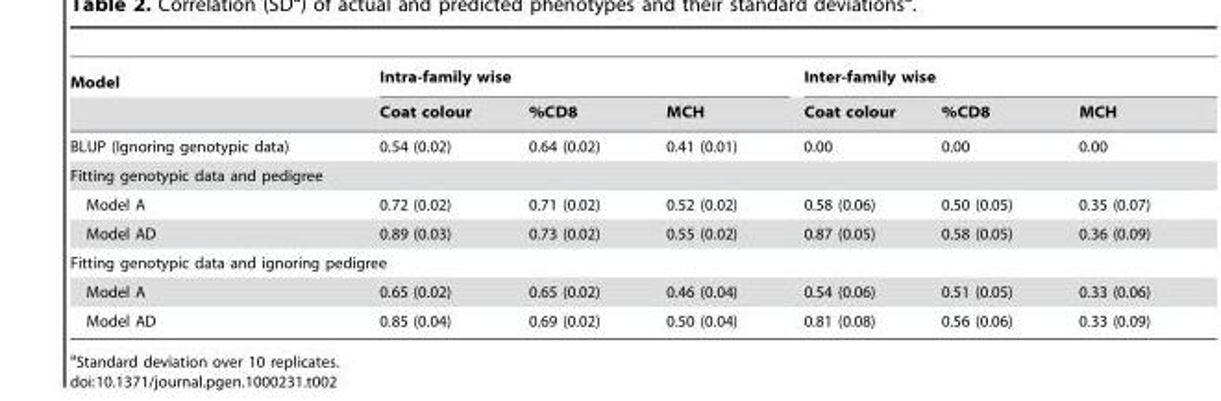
<table><thead><tr><td rowspan="2">Model</td><td colspan="3">Intra-family wise</td><td colspan="3">Inter-family wise</td></tr><tr><td>Coat colour</td><td>%CD8</td><td>MCH</td><td>Coat colour</td><td>%CD8</td><td>MCH</td></tr></thead><tbody><tr><td>BLUP (Ignoring genotypic data)</td><td>0.54 (0.02)</td><td>0.64 (0.02)</td><td>0.41 (0.01)</td><td>0.00</td><td>0.00</td><td>0.00</td></tr><tr><td colspan="7">Fitting genotypic data and pedigree</td></tr><tr><td>Model A</td><td>0.72 (0.02)</td><td>0.71 (0.02)</td><td>0.52 (0.02)</td><td>0.58 (0.06)</td><td>0.50 (0.05)</td><td>0.35 (0.07)</td></tr><tr><td>Model AD</td><td>0.89 (0.03)</td><td>0.73 (0.02)</td><td>0.55 (0.02)</td><td>0.87 (0.05)</td><td>0.58 (0.05)</td><td>0.36 (0.09)</td></tr><tr><td colspan="7">Fitting genotypic data and ignoring pedigree</td></tr><tr><td>Model A</td><td>0.65 (0.02)</td><td>0.65 (0.02)</td><td>0.46 (0.04)</td><td>0.54 (0.06)</td><td>0.51 (0.05)</td><td>0.33 (0.06)</td></tr><tr><td>Model AD</td><td>0.85 (0.04)</td><td>0.69 (0.02)</td><td>0.50 (0.04)</td><td>0.81 (0.08)</td><td>0.56 (0.06)</td><td>0.33 (0.09)</td></tr></tbody></table>